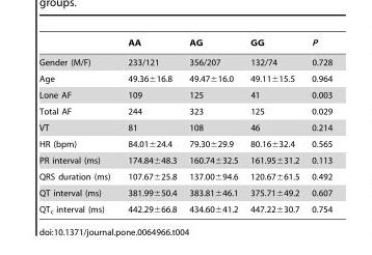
<table><thead><tr><td></td><td>AA</td><td>AG</td><td>GG</td><td>P</td></tr></thead><tbody><tr><td>Gender (M/F)</td><td>233/121</td><td>356/207</td><td>132/74</td><td>0.728</td></tr><tr><td>Age</td><td>49.36±16.8</td><td>49.47±16.0</td><td>49.11±15.5</td><td>0.964</td></tr><tr><td>Lone AF</td><td>109</td><td>125</td><td>41</td><td>0.003</td></tr><tr><td>Total AF</td><td>244</td><td>323</td><td>125</td><td>0.029</td></tr><tr><td>VT</td><td>81</td><td>108</td><td>46</td><td>0.214</td></tr><tr><td>HR (bpm)</td><td>84.01±24.4</td><td>79.30±29.9</td><td>80.16±32.4</td><td>0.565</td></tr><tr><td>PR interval (ms)</td><td>174.84±48.3</td><td>160.74±32.5</td><td>161.95±31.2</td><td>0.113</td></tr><tr><td>QRS duration (ms)</td><td>107.67±25.8</td><td>137.00±94.6</td><td>120.67±61.5</td><td>0.492</td></tr><tr><td>QT interval (ms)</td><td>381.99±50.4</td><td>383.81±46.1</td><td>375.71±49.2</td><td>0.607</td></tr><tr><td>QT<sub>c</sub> interval (ms)</td><td>442.29±66.8</td><td>434.60±41.2</td><td>447.22±30.7</td><td>0.754</td></tr></tbody></table>